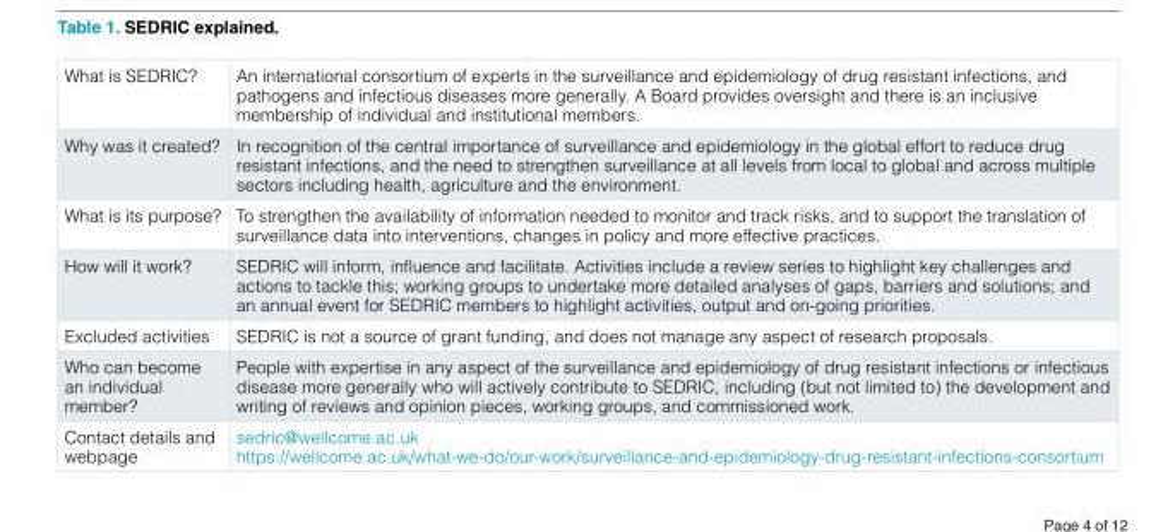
<table><tbody><tr><td>What is SEDRIC?</td><td>An international consortium of experts in the surveillance and epidemiology of drug resistant infections, and pathogens and infectious diseases more generally. A Board provides oversight and there is an inclusive membership of individual and institutional members.</td></tr><tr><td>Why was it created?</td><td>In recognition of the central importance of surveillance and epidemiology in the global effort to reduce drug resistant infections, and the need to strengthen surveillance at all levels from local to global and across multiple sectors including health, agriculture and the environment.</td></tr><tr><td>What is its purpose?</td><td>To strengthen the availability of information needed to monitor and track risks, and to support the translation of surveillance data into interventions, changes in policy and more effective practices.</td></tr><tr><td>How will it work?</td><td>SEDRIC will inform, influence and facilitate. Activities include a review series to highlight key challenges and actions to tackle this; working groups to undertake more detailed analyses of gaps, barriers and solutions; and an annual event for SEDRIC members to highlight activities, output and on-going priorities.</td></tr><tr><td>Excluded activities</td><td>SEDRIC is not a source of grant funding, and does not manage any aspect of research proposals.</td></tr><tr><td>Who can become an individual member?</td><td>People with expertise in any aspect of the surveillance and epidemiology of drug resistant infections or infectious disease more generally who will actively contribute to SEDRIC, including (but not limited to) the development and writing of reviews and opinion pieces, working groups, and commissioned work.</td></tr><tr><td>Contact details and webpage</td><td>sedric@wellcome.ac.uk https://wellcome.ac.uk/what-we-do/our-work/surveillance-and-epidemiology-drug-resistant-infections-consortium</td></tr></tbody></table>